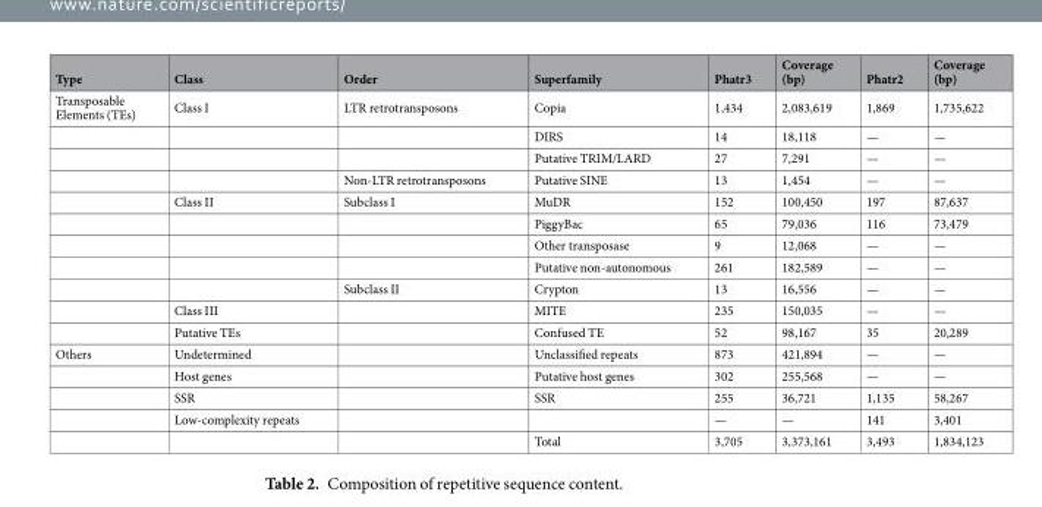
<table><thead><tr><td>Type</td><td>Class</td><td>Order</td><td>Superfamily</td><td>Phatr3</td><td>Coverage (bp)</td><td>Phatr2</td><td>Coverage (bp)</td></tr></thead><tbody><tr><td rowspan="11">Transposable Elements (TEs)</td><td>Class I</td><td>LTR retrotransposons</td><td>Copia</td><td>1,434</td><td>2,083,619</td><td>1,869</td><td>1,735,622</td></tr><tr><td></td><td></td><td>DIRS</td><td>14</td><td>18,118</td><td>—</td><td>—</td></tr><tr><td></td><td></td><td>Putative TRIM/LARD</td><td>27</td><td>7,291</td><td>—</td><td>—</td></tr><tr><td></td><td>Non-LTR retrotransposons</td><td>Putative SINE</td><td>13</td><td>1,454</td><td>—</td><td>—</td></tr><tr><td>Class II</td><td>Subclass I</td><td>MuDR</td><td>152</td><td>100,450</td><td>197</td><td>87,637</td></tr><tr><td></td><td></td><td>PiggyBac</td><td>65</td><td>79,036</td><td>116</td><td>73,479</td></tr><tr><td></td><td></td><td>Other transposase</td><td>9</td><td>12,068</td><td>—</td><td>—</td></tr><tr><td></td><td></td><td>Putative non-autonomous</td><td>261</td><td>182,589</td><td>—</td><td>—</td></tr><tr><td></td><td>Subclass II</td><td>Crypton</td><td>13</td><td>16,556</td><td>—</td><td>—</td></tr><tr><td>Class III</td><td></td><td>MITE</td><td>235</td><td>150,035</td><td>—</td><td>—</td></tr><tr><td>Putative TEs</td><td></td><td>Confused TE</td><td>52</td><td>98,167</td><td>35</td><td>20,289</td></tr><tr><td rowspan="5">Others</td><td>Undetermined</td><td></td><td>Unclassified repeats</td><td>873</td><td>421,894</td><td>—</td><td>—</td></tr><tr><td>Host genes</td><td></td><td>Putative host genes</td><td>302</td><td>255,568</td><td>—</td><td>—</td></tr><tr><td>SSR</td><td></td><td>SSR</td><td>255</td><td>36,721</td><td>1,135</td><td>58,267</td></tr><tr><td>Low-complexity repeats</td><td></td><td></td><td>—</td><td>—</td><td>141</td><td>3,401</td></tr><tr><td></td><td></td><td>Total</td><td>3,705</td><td>3,373,161</td><td>3,493</td><td>1,834,123</td></tr></tbody></table>